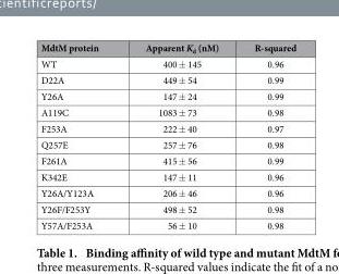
<table><thead><tr><td>MdtM protein</td><td>Apparent K<sub>d</sub> (nM)</td><td>R-squared</td></tr></thead><tbody><tr><td>WT</td><td>400 ± 145</td><td>0.96</td></tr><tr><td>D22A</td><td>449 ± 54</td><td>0.99</td></tr><tr><td>Y26A</td><td>147 ± 24</td><td>0.99</td></tr><tr><td>A119C</td><td>1083 ± 73</td><td>0.98</td></tr><tr><td>F253A</td><td>222 ± 40</td><td>0.97</td></tr><tr><td>Q257E</td><td>257 ± 76</td><td>0.98</td></tr><tr><td>F261A</td><td>415 ± 56</td><td>0.99</td></tr><tr><td>K342E</td><td>147 ± 11</td><td>0.96</td></tr><tr><td>Y26A/Y123A</td><td>206 ± 46</td><td>0.96</td></tr><tr><td>Y26F/F253Y</td><td>498 ± 52</td><td>0.98</td></tr><tr><td>Y57A/F253A</td><td>56 ± 10</td><td>0.98</td></tr></tbody></table>